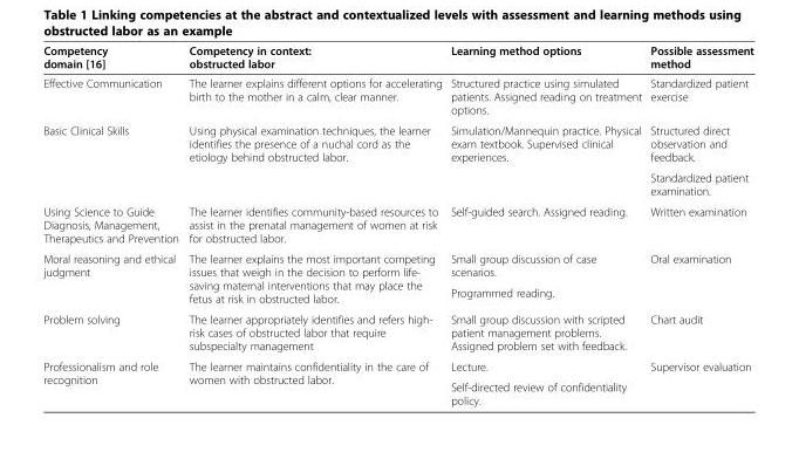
<table><thead><tr><td>Competency domain [16]</td><td>Competency in context: obstructed labor</td><td>Learning method options</td><td>Possible assessment method</td></tr></thead><tbody><tr><td>Effective Communication</td><td>The learner explains different options for accelerating birth to the mother in a calm, clear manner.</td><td>Structured practice using simulated patients. Assigned reading on treatment options.</td><td>Standardized patient exercise</td></tr><tr><td rowspan="2">Basic Clinical Skills</td><td rowspan="2">Using physical examination techniques, the learner identifies the presence of a nuchal cord as the etiology behind obstructed labor.</td><td rowspan="2">Simulation/Mannequin practice. Physical exam textbook. Supervised clinical experiences.</td><td>Structured direct observation and feedback.</td></tr><tr><td>Standardized patient examination.</td></tr><tr><td>Using Science to Guide Diagnosis, Management, Therapeutics and Prevention</td><td>The learner identifies community-based resources to assist in the prenatal management of women at risk for obstructed labor.</td><td>Self-guided search. Assigned reading.</td><td>Written examination</td></tr><tr><td rowspan="2">Moral reasoning and ethical judgment</td><td rowspan="2">The learner explains the most important competing issues that weigh in the decision to perform life- saving maternal interventions that may place the fetus at risk in obstructed labor.</td><td>Small group discussion of case scenarios.</td><td rowspan="2">Oral examination</td></tr><tr><td>Programmed reading.</td></tr><tr><td>Problem solving</td><td>The learner appropriately identifies and refers high- risk cases of obstructed labor that require subspecialty management</td><td>Small group discussion with scripted patient management problems. Assigned problem set with feedback.</td><td>Chart audit</td></tr><tr><td rowspan="2">Professionalism and role recognition</td><td rowspan="2">The learner maintains confidentiality in the care of women with obstructed labor.</td><td>Lecture.</td><td rowspan="2">Supervisor evaluation</td></tr><tr><td>Self-directed review of confidentiality policy.</td></tr></tbody></table>